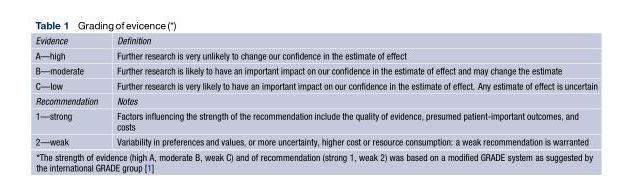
<table><tbody><tr><td>Evidence</td><td>Definition</td></tr><tr><td>A—high</td><td>Further research is very unlikely to change our confidence in the estimate of effect</td></tr><tr><td>B—moderate</td><td>Further research is likely to have an important impact on our confidence in the estimate of effect and may change the estimate</td></tr><tr><td>C—low</td><td>Further research is very likely to have an important impact on our confidence in the estimate of effect. Any estimate of effect is uncertain</td></tr><tr><td>Recommendation</td><td>Notes</td></tr><tr><td>1—strong</td><td>Factors influencing the strength of the recommendation include the quality of evidence, presumed patient-important outcomes, and costs</td></tr><tr><td>2—weak</td><td>Variability in preferences and values, or more uncertainty, higher cost or resource consumption: a weak recommendation is warranted</td></tr></tbody></table>